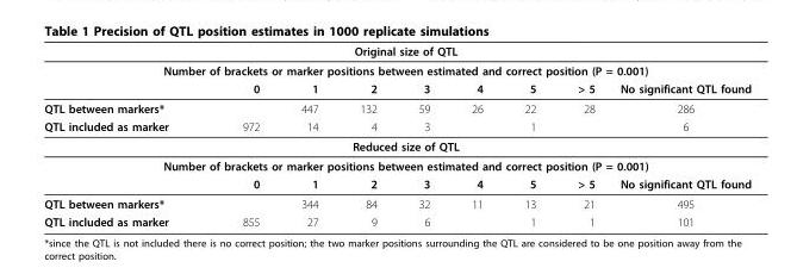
<table><thead><tr><td rowspan="2" colspan="9">Original size of QTL Number of brackets or marker positions between estimated and correct position (P = 0.001)</td></tr><tr></tr><tr><td></td><td>0</td><td>1</td><td>2</td><td>3</td><td>4</td><td>5</td><td>&gt; 5</td><td>No significant QTL found</td></tr></thead><tbody><tr><td>QTL between markers*</td><td></td><td>447</td><td>132</td><td>59</td><td>26</td><td>22</td><td>28</td><td>286</td></tr><tr><td>QTL included as marker</td><td>972</td><td>14</td><td>4</td><td>3</td><td></td><td>1</td><td></td><td>6</td></tr><tr><td colspan="9">Reduced size of QTL</td></tr><tr><td colspan="9">Number of brackets or marker positions between estimated and correct position (P = 0.001)</td></tr><tr><td></td><td>0</td><td>1</td><td>2</td><td>3</td><td>4</td><td>5</td><td>&gt; 5</td><td>No significant QTL found</td></tr><tr><td>QTL between markers*</td><td></td><td>344</td><td>84</td><td>32</td><td>11</td><td>13</td><td>21</td><td>495</td></tr><tr><td>QTL included as marker</td><td>855</td><td>27</td><td>9</td><td>6</td><td></td><td>1</td><td>1</td><td>101</td></tr></tbody></table>